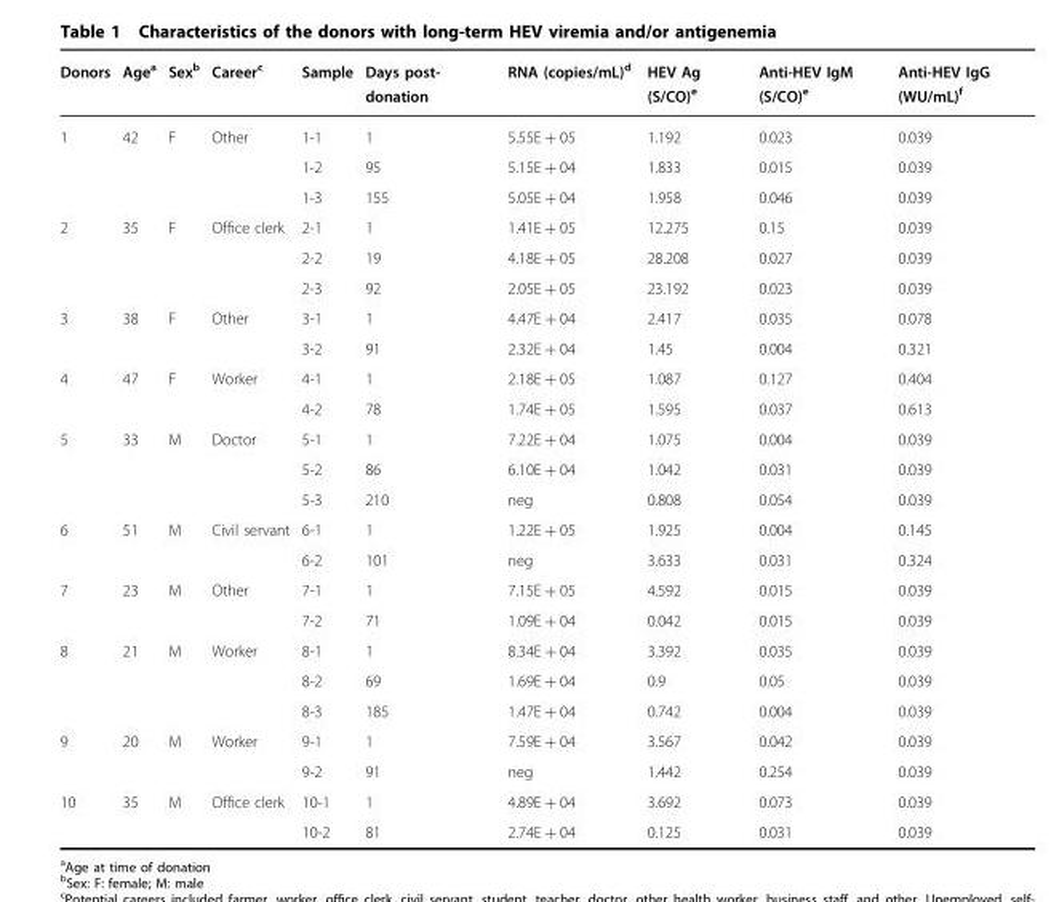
<table><thead><tr><td>Donors</td><td>Age<sup>a</sup></td><td>Sex<sup>b</sup></td><td>Career<sup>c</sup></td><td>Sample</td><td>Days post- donation</td><td>RNA (copies/mL)<sup>d</sup></td><td>HEV Ag (S/CO)<sup>e</sup></td><td>Anti-HEV IgM (S/CO)<sup>e</sup></td><td>Anti-HEV IgG (WU/mL)<sup>f</sup></td></tr></thead><tbody><tr><td rowspan="3">1</td><td>42</td><td>F</td><td>Other</td><td>1-1</td><td>1</td><td>5.55E + 05</td><td>1.192</td><td>0.023</td><td>0.039</td></tr><tr><td></td><td></td><td></td><td>1-2</td><td>95</td><td>5.15E + 04</td><td>1.833</td><td>0.015</td><td>0.039</td></tr><tr><td></td><td></td><td></td><td>1-3</td><td>155</td><td>5.05E + 04</td><td>1.958</td><td>0.046</td><td>0.039</td></tr><tr><td rowspan="3">2</td><td>35</td><td>F</td><td>Office clerk</td><td>2-1</td><td>1</td><td>1.41E + 05</td><td>12.275</td><td>0.15</td><td>0.039</td></tr><tr><td></td><td></td><td></td><td>2-2</td><td>19</td><td>4.18E + 05</td><td>28.208</td><td>0.027</td><td>0.039</td></tr><tr><td></td><td></td><td></td><td>2-3</td><td>92</td><td>2.05E + 05</td><td>23.192</td><td>0.023</td><td>0.039</td></tr><tr><td rowspan="2">3</td><td>38</td><td>F</td><td>Other</td><td>3-1</td><td>1</td><td>4.47E + 04</td><td>2.417</td><td>0.035</td><td>0.078</td></tr><tr><td></td><td></td><td></td><td>3-2</td><td>91</td><td>2.32E + 04</td><td>1.45</td><td>0.004</td><td>0.321</td></tr><tr><td rowspan="2">4</td><td>47</td><td>F</td><td>Worker</td><td>4-1</td><td>1</td><td>2.18E + 05</td><td>1.087</td><td>0.127</td><td>0.404</td></tr><tr><td></td><td></td><td></td><td>4-2</td><td>78</td><td>1.74E + 05</td><td>1.595</td><td>0.037</td><td>0.613</td></tr><tr><td rowspan="3">5</td><td>33</td><td>M</td><td>Doctor</td><td>5-1</td><td>1</td><td>7.22E + 04</td><td>1.075</td><td>0.004</td><td>0.039</td></tr><tr><td></td><td></td><td></td><td>5-2</td><td>86</td><td>6.10E + 04</td><td>1.042</td><td>0.031</td><td>0.039</td></tr><tr><td></td><td></td><td></td><td>5-3</td><td>210</td><td>neg</td><td>0.808</td><td>0.054</td><td>0.039</td></tr><tr><td rowspan="2">6</td><td>51</td><td>M</td><td>Civil servant</td><td>6-1</td><td>1</td><td>1.22E + 05</td><td>1.925</td><td>0.004</td><td>0.145</td></tr><tr><td></td><td></td><td></td><td>6-2</td><td>101</td><td>neg</td><td>3.633</td><td>0.031</td><td>0.324</td></tr><tr><td rowspan="2">7</td><td>23</td><td>M</td><td>Other</td><td>7-1</td><td>1</td><td>7.15E + 05</td><td>4.592</td><td>0.015</td><td>0.039</td></tr><tr><td></td><td></td><td></td><td>7-2</td><td>71</td><td>1.09E + 04</td><td>0.042</td><td>0.015</td><td>0.039</td></tr><tr><td rowspan="3">8</td><td>21</td><td>M</td><td>Worker</td><td>8-1</td><td>1</td><td>8.34E + 04</td><td>3.392</td><td>0.035</td><td>0.039</td></tr><tr><td></td><td></td><td></td><td>8-2</td><td>69</td><td>1.69E + 04</td><td>0.9</td><td>0.05</td><td>0.039</td></tr><tr><td></td><td></td><td></td><td>8-3</td><td>185</td><td>1.47E + 04</td><td>0.742</td><td>0.004</td><td>0.039</td></tr><tr><td rowspan="2">9</td><td>20</td><td>M</td><td>Worker</td><td>9-1</td><td>1</td><td>7.59E + 04</td><td>3.567</td><td>0.042</td><td>0.039</td></tr><tr><td></td><td></td><td></td><td>9-2</td><td>91</td><td>neg</td><td>1.442</td><td>0.254</td><td>0.039</td></tr><tr><td rowspan="2">10</td><td>35</td><td>M</td><td>Office clerk</td><td>10-1</td><td>1</td><td>4.89E + 04</td><td>3.692</td><td>0.073</td><td>0.039</td></tr><tr><td></td><td></td><td></td><td>10-2</td><td>81</td><td>2.74E + 04</td><td>0.125</td><td>0.031</td><td>0.039</td></tr></tbody></table>